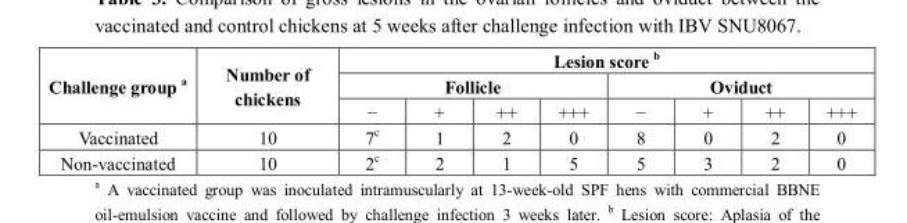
<table><tbody><tr><td rowspan="3">Challenge group <sup>a</sup></td><td rowspan="3">Number of chickens</td><td colspan="8">Lesion score <sup>b</sup></td></tr><tr><td colspan="4">Follicle</td><td colspan="4">Oviduct</td></tr><tr><td>−</td><td>+</td><td>++</td><td>+++</td><td>−</td><td>+</td><td>++</td><td>+++</td></tr><tr><td>Vaccinated</td><td>10</td><td>7<sup>c</sup></td><td>1</td><td>2</td><td>0</td><td>8</td><td>0</td><td>2</td><td>0</td></tr><tr><td>Non-vaccinated</td><td>10</td><td>2<sup>c</sup></td><td>2</td><td>1</td><td>5</td><td>5</td><td>3</td><td>2</td><td>0</td></tr></tbody></table>